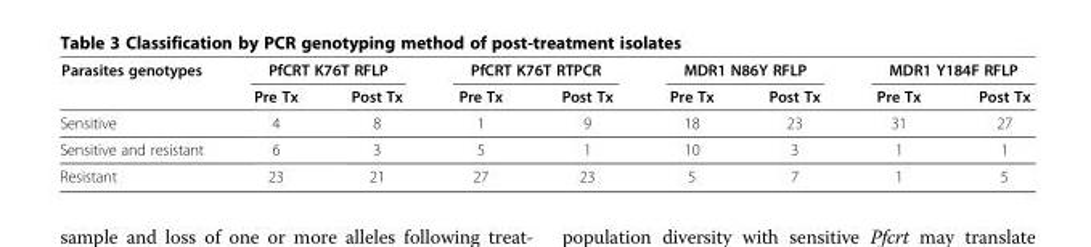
<table><thead><tr><td rowspan="2">Parasites genotypes</td><td colspan="2">PfCRT K76T RFLP</td><td colspan="2">PfCRT K76T RTPCR</td><td colspan="2">MDR1 N86Y RFLP</td><td colspan="2">MDR1 Y184F RFLP</td></tr><tr><td>Pre Tx</td><td>Post Tx</td><td>Pre Tx</td><td>Post Tx</td><td>Pre Tx</td><td>Post Tx</td><td>Pre Tx</td><td>Post Tx</td></tr></thead><tbody><tr><td>Sensitive</td><td>4</td><td>8</td><td>1</td><td>9</td><td>18</td><td>23</td><td>31</td><td>27</td></tr><tr><td>Sensitive and resistant</td><td>6</td><td>3</td><td>5</td><td>1</td><td>10</td><td>3</td><td>1</td><td>1</td></tr><tr><td>Resistant</td><td>23</td><td>21</td><td>27</td><td>23</td><td>5</td><td>7</td><td>1</td><td>5</td></tr></tbody></table>